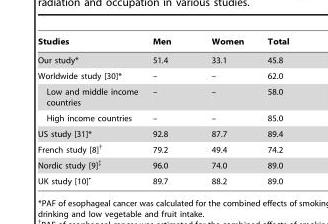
<table><thead><tr><td>Studies</td><td>Men</td><td>Women</td><td>Total</td></tr></thead><tbody><tr><td>Our study*</td><td>51.4</td><td>33.1</td><td>45.8</td></tr><tr><td>Worldwide study [30]*</td><td>–</td><td>–</td><td>62.0</td></tr><tr><td>Low and middle income countries</td><td>–</td><td>–</td><td>58.0</td></tr><tr><td>High income countries</td><td>–</td><td>–</td><td>85.0</td></tr><tr><td>US study [31]*</td><td>92.8</td><td>87.7</td><td>89.4</td></tr><tr><td>French study [8]†</td><td>79.2</td><td>49.4</td><td>74.2</td></tr><tr><td>Nordic study [9]‡</td><td>96.0</td><td>74.0</td><td>89.0</td></tr><tr><td>UK study [10]•</td><td>89.7</td><td>88.2</td><td>89.0</td></tr></tbody></table>